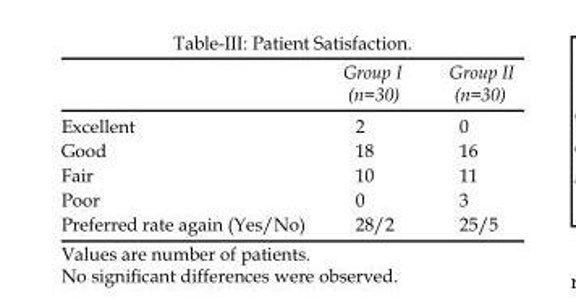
<table><thead><tr><td></td><td>Group I (n=30)</td><td>Group II (n=30)</td></tr></thead><tbody><tr><td>Excellent</td><td>2</td><td>0</td></tr><tr><td>Good</td><td>18</td><td>16</td></tr><tr><td>Fair</td><td>10</td><td>11</td></tr><tr><td>Poor</td><td>0</td><td>3</td></tr><tr><td>Preferred rate again (Yes/No)</td><td>28/2</td><td>25/5</td></tr></tbody></table>